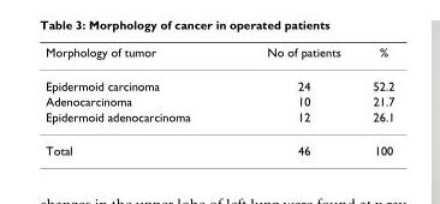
<table><thead><tr><td>Morphology of tumor</td><td>No of patients</td><td>%</td></tr></thead><tbody><tr><td>Epidermoid carcinoma</td><td>24</td><td>52.2</td></tr><tr><td>Adenocarcinoma</td><td>10</td><td>21.7</td></tr><tr><td>Epidermoid adenocarcinoma</td><td>12</td><td>26.1</td></tr><tr><td>Total</td><td>46</td><td>100</td></tr></tbody></table>